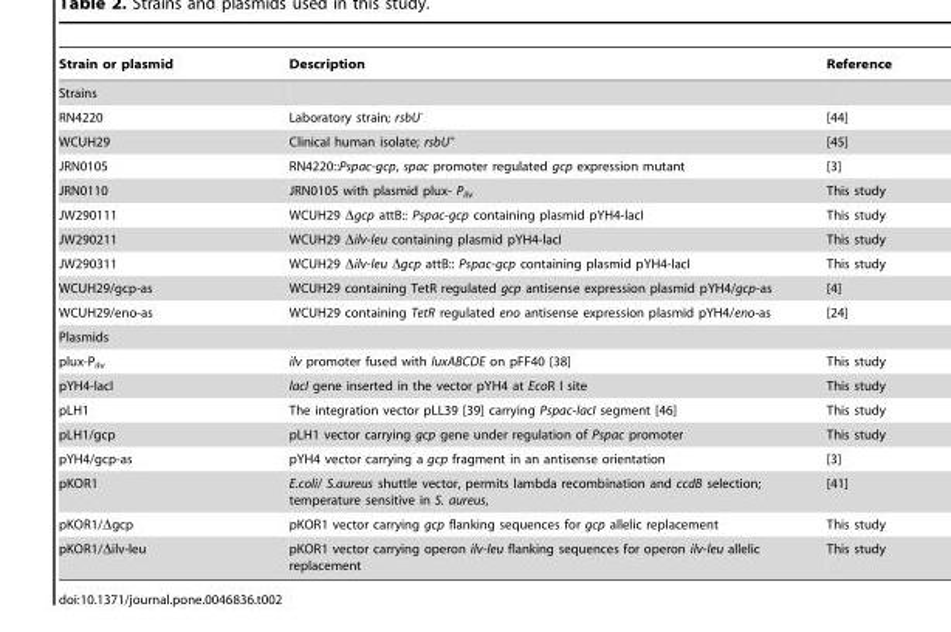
<table><thead><tr><td>Strain or plasmid</td><td>Description</td><td>Reference</td></tr></thead><tbody><tr><td colspan="3">Strains</td></tr><tr><td>RN4220</td><td>Laboratory strain; rsbU<sup>-</sup></td><td>[44]</td></tr><tr><td>WCUH29</td><td>Clinical human isolate; rsbU<sup>+</sup></td><td>[45]</td></tr><tr><td>JRN0105</td><td>RN4220::Pspac-gcp, spac promoter regulated gcp expression mutant</td><td>[3]</td></tr><tr><td>JRN0110</td><td>JRN0105 with plasmid plux- P<sub>ilv</sub></td><td>This study</td></tr><tr><td>JW290111</td><td>WCUH29 Δgcp attB:: Pspac-gcp containing plasmid pYH4-lacI</td><td>This study</td></tr><tr><td>JW290211</td><td>WCUH29 Δilv-leu containing plasmid pYH4-lacI</td><td>This study</td></tr><tr><td>JW290311</td><td>WCUH29 Δilv-leu Δgcp attB:: Pspac-gcp containing plasmid pYH4-lacI</td><td>This study</td></tr><tr><td>WCUH29/gcp-as</td><td>WCUH29 containing TetR regulated gcp antisense expression plasmid pYH4/gcp-as</td><td>[4]</td></tr><tr><td>WCUH29/eno-as</td><td>WCUH29 containing TetR regulated eno antisense expression plasmid pYH4/eno-as</td><td>[24]</td></tr><tr><td colspan="3">Plasmids</td></tr><tr><td>plux-P<sub>ilv</sub></td><td>ilv promoter fused with luxABCDE on pFF40 [38]</td><td>This study</td></tr><tr><td>pYH4-lacI</td><td>lacI gene inserted in the vector pYH4 at EcoR I site</td><td>This study</td></tr><tr><td>pLH1</td><td>The integration vector pLL39 [39] carrying Pspac-lacI segment [46]</td><td>This study</td></tr><tr><td>pLH1/gcp</td><td>pLH1 vector carrying gcp gene under regulation of Pspac promoter</td><td>This study</td></tr><tr><td>pYH4/gcp-as</td><td>pYH4 vector carrying a gcp fragment in an antisense orientation</td><td>[3]</td></tr><tr><td>pKOR1</td><td>E.coli/ S.aureus shuttle vector, permits lambda recombination and ccdB selection; temperature sensitive in S. aureus,</td><td>[41]</td></tr><tr><td>pKOR1/Δgcp</td><td>pKOR1 vector carrying gcp flanking sequences for gcp allelic replacement</td><td>This study</td></tr><tr><td>pKOR1/Δilv-leu</td><td>pKOR1 vector carrying operon ilv-leu flanking sequences for operon ilv-leu allelic replacement</td><td>This study</td></tr></tbody></table>